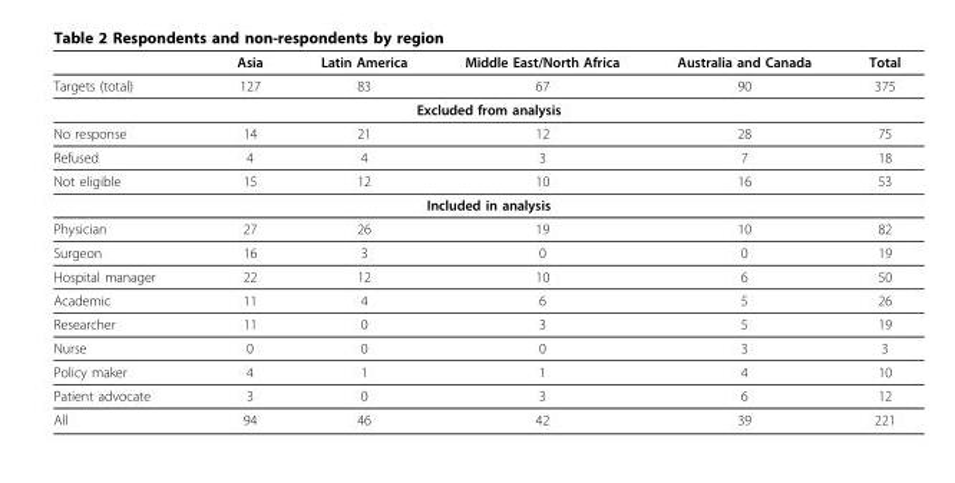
<table><thead><tr><td></td><td>Asia</td><td>Latin America</td><td>Middle East/North Africa</td><td>Australia and Canada</td><td>Total</td></tr></thead><tbody><tr><td>Targets (total)</td><td>127</td><td>83</td><td>67</td><td>90</td><td>375</td></tr><tr><td colspan="6">Excluded from analysis</td></tr><tr><td>No response</td><td>14</td><td>21</td><td>12</td><td>28</td><td>75</td></tr><tr><td>Refused</td><td>4</td><td>4</td><td>3</td><td>7</td><td>18</td></tr><tr><td>Not eligible</td><td>15</td><td>12</td><td>10</td><td>16</td><td>53</td></tr><tr><td colspan="6">Included in analysis</td></tr><tr><td>Physician</td><td>27</td><td>26</td><td>19</td><td>10</td><td>82</td></tr><tr><td>Surgeon</td><td>16</td><td>3</td><td>0</td><td>0</td><td>19</td></tr><tr><td>Hospital manager</td><td>22</td><td>12</td><td>10</td><td>6</td><td>50</td></tr><tr><td>Academic</td><td>11</td><td>4</td><td>6</td><td>5</td><td>26</td></tr><tr><td>Researcher</td><td>11</td><td>0</td><td>3</td><td>5</td><td>19</td></tr><tr><td>Nurse</td><td>0</td><td>0</td><td>0</td><td>3</td><td>3</td></tr><tr><td>Policy maker</td><td>4</td><td>1</td><td>1</td><td>4</td><td>10</td></tr><tr><td>Patient advocate</td><td>3</td><td>0</td><td>3</td><td>6</td><td>12</td></tr><tr><td>All</td><td>94</td><td>46</td><td>42</td><td>39</td><td>221</td></tr></tbody></table>